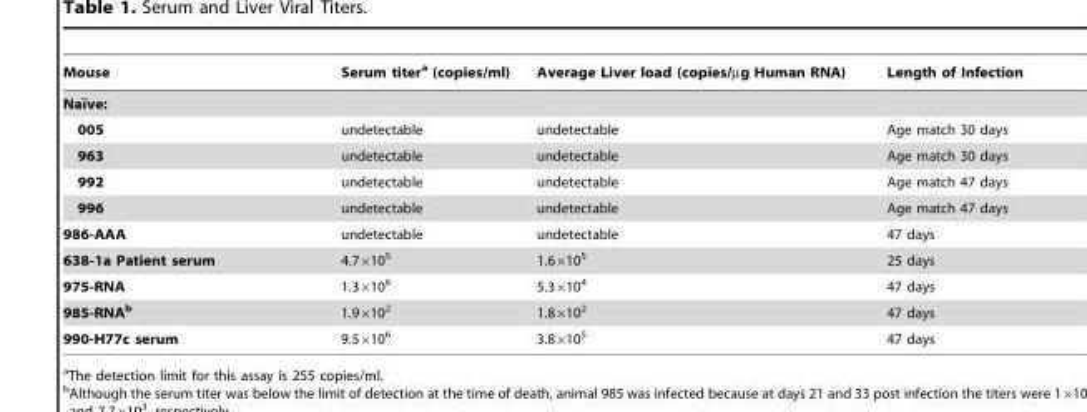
<table><thead><tr><td>Mouse</td><td>Serum titer<sup>a</sup> (copies/ml)</td><td>Average Liver load (copies/µg Human RNA)</td><td>Length of Infection</td></tr></thead><tbody><tr><td colspan="4">Naı¨ve:</td></tr><tr><td>005</td><td>undetectable</td><td>undetectable</td><td>Age match 30 days</td></tr><tr><td>963</td><td>undetectable</td><td>undetectable</td><td>Age match 30 days</td></tr><tr><td>992</td><td>undetectable</td><td>undetectable</td><td>Age match 47 days</td></tr><tr><td>996</td><td>undetectable</td><td>undetectable</td><td>Age match 47 days</td></tr><tr><td>986-AAA</td><td>undetectable</td><td>undetectable</td><td>47 days</td></tr><tr><td>638-1a Patient serum</td><td>4.7×10<sup>5</sup></td><td>1.6×10<sup>5</sup></td><td>25 days</td></tr><tr><td>975-RNA</td><td>1.3×10<sup>6</sup></td><td>5.3×10<sup>4</sup></td><td>47 days</td></tr><tr><td>985-RNAb</td><td>1.9×10<sup>2</sup></td><td>1.8×10<sup>2</sup></td><td>47 days</td></tr><tr><td>990-H77c serum</td><td>9.5×10<sup>6</sup></td><td>3.8×10<sup>5</sup></td><td>47 days</td></tr></tbody></table>